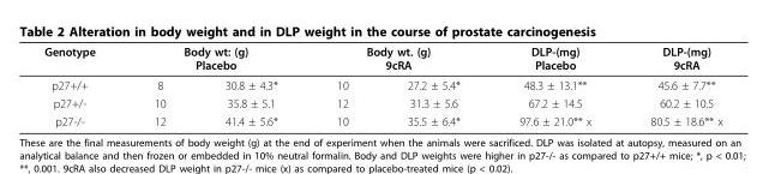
<table><thead><tr><td rowspan="2">Genotype p27+/+</td><td colspan="2">Body wt: (g) Placebo</td><td colspan="2">Body wt. (g) 9cRA</td><td rowspan="2">DLP-(mg) Placebo 48.3 ± 13.1**</td><td rowspan="2">DLP-(mg) 9cRA 45.6 ± 7.7**</td></tr><tr><td>8</td><td>30.8 ± 4.3*</td><td>10</td><td>27.2 ± 5.4*</td></tr></thead><tbody><tr><td>p27+/-</td><td>10</td><td>35.8 ± 5.1</td><td>12</td><td>31.3 ± 5.6</td><td>67.2 ± 14.5</td><td>60.2 ± 10.5</td></tr><tr><td>p27-/-</td><td>12</td><td>41.4 ± 5.6*</td><td>10</td><td>35.5 ± 6.4*</td><td>97.6 ± 21.0** x</td><td>80.5 ± 18.6** x</td></tr></tbody></table>